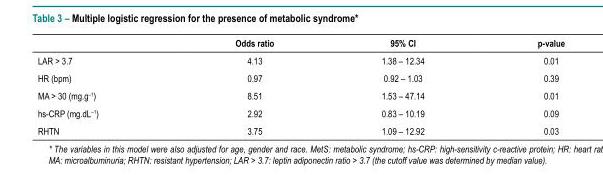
<table><thead><tr><td></td><td>Odds ratio</td><td>95% CI</td><td>p-value</td></tr></thead><tbody><tr><td>LAR &gt; 3.7</td><td>4.13</td><td>1.38 – 12.34</td><td>0.01</td></tr><tr><td>HR (bpm)</td><td>0.97</td><td>0.92 – 1.03</td><td>0.39</td></tr><tr><td>MA &gt; 30 (mg.g<sup>–1</sup>)</td><td>8.51</td><td>1.53 – 47.14</td><td>0.01</td></tr><tr><td>hs-CRP (mg.dL<sup>–1</sup>)</td><td>2.92</td><td>0.83 – 10.19</td><td>0.09</td></tr><tr><td>RHTN</td><td>3.75</td><td>1.09 – 12.92</td><td>0.03</td></tr></tbody></table>